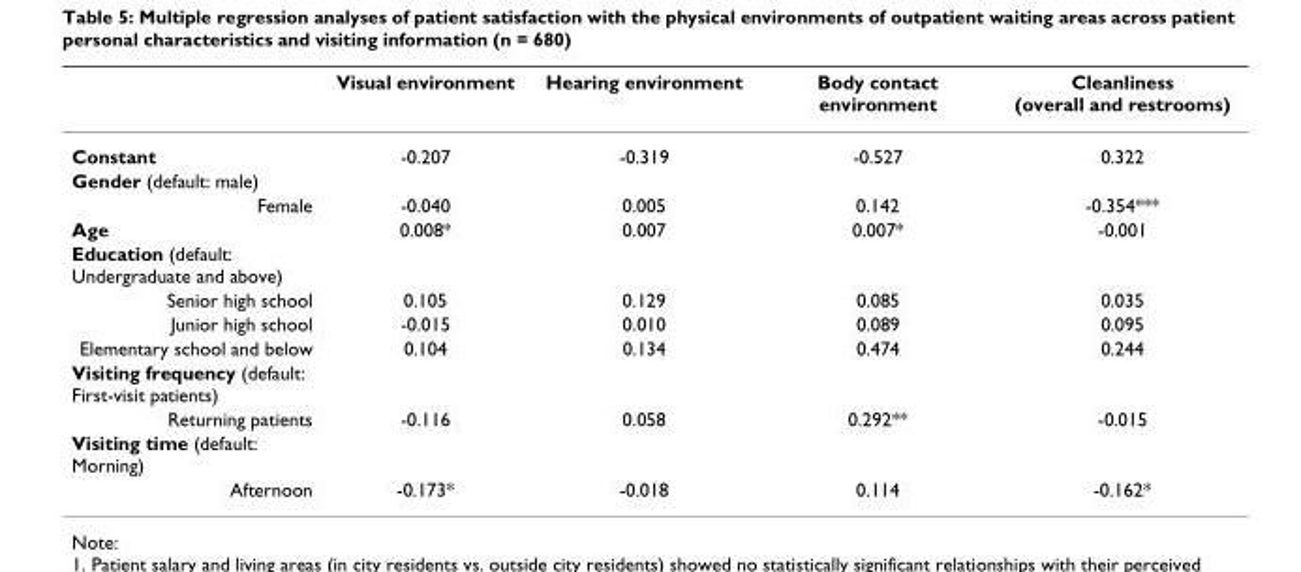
<table><thead><tr><td></td><td>Visual environment</td><td>Hearing environment</td><td>Body contact environment</td><td>Cleanliness (overall and restrooms)</td></tr></thead><tbody><tr><td>Constant</td><td>-0.207</td><td>-0.319</td><td>-0.527</td><td>0.322</td></tr><tr><td colspan="5">Gender (default: male)</td></tr><tr><td>Female</td><td>-0.040</td><td>0.005</td><td>0.142</td><td>-0.354***</td></tr><tr><td>Age</td><td>0.008*</td><td>0.007</td><td>0.007*</td><td>-0.001</td></tr><tr><td colspan="5">Education (default: Undergraduate and above)</td></tr><tr><td>Senior high school</td><td>0.105</td><td>0.129</td><td>0.085</td><td>0.035</td></tr><tr><td>Junior high school</td><td>-0.015</td><td>0.010</td><td>0.089</td><td>0.095</td></tr><tr><td>Elementary school and below</td><td>0.104</td><td>0.134</td><td>0.474</td><td>0.244</td></tr><tr><td colspan="5">Visiting frequency (default: First-visit patients)</td></tr><tr><td>Returning patients</td><td>-0.116</td><td>0.058</td><td>0.292**</td><td>-0.015</td></tr><tr><td colspan="5">Visiting time (default: Morning)</td></tr><tr><td>Afternoon</td><td>-0.173*</td><td>-0.018</td><td>0.114</td><td>-0.162*</td></tr></tbody></table>